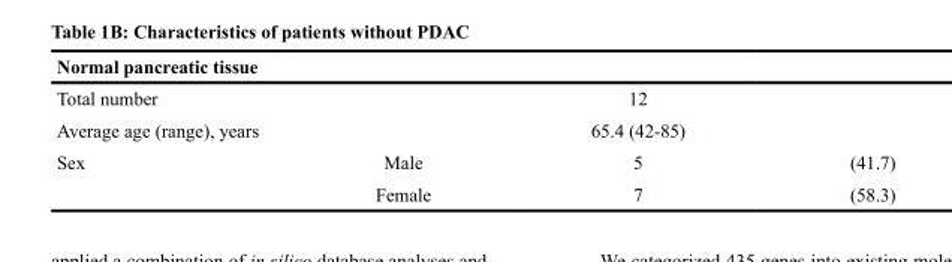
<table><thead><tr><td colspan="4">Normal pancreatic tissue</td></tr><tr><td>Total number</td><td></td><td>12</td><td></td></tr></thead><tbody><tr><td>Average age (range), years</td><td></td><td>65.4 (42-85)</td><td></td></tr><tr><td rowspan="2">Sex</td><td>Male</td><td>5</td><td>(41.7)</td></tr><tr><td>Female</td><td>7</td><td>(58.3)</td></tr></tbody></table>